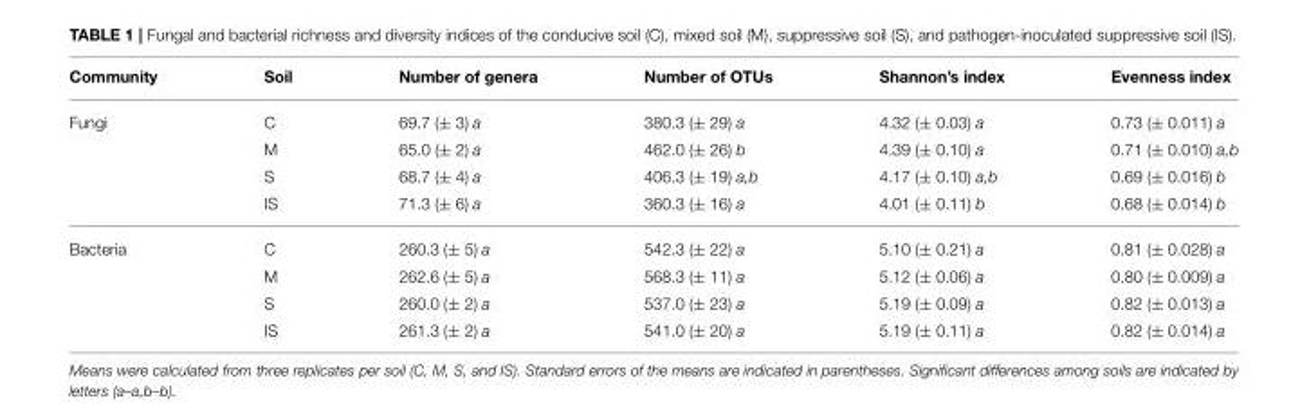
<table><thead><tr><td>Community</td><td>Soil</td><td>Number of genera</td><td>Number of OTUs</td><td>Shannon’s index</td><td>Evenness index</td></tr></thead><tbody><tr><td rowspan="4">Fungi</td><td>C</td><td>69.7 (± 3) a</td><td>380.3 (± 29) a</td><td>4.32 (± 0.03) a</td><td>0.73 (± 0.011) a</td></tr><tr><td>M</td><td>65.0 (± 2) a</td><td>462.0 (± 26) b</td><td>4.39 (± 0.10) a</td><td>0.71 (± 0.010) a,b</td></tr><tr><td>S</td><td>68.7 (± 4) a</td><td>406.3 (± 19) a,b</td><td>4.17 (± 0.10) a,b</td><td>0.69 (± 0.016) b</td></tr><tr><td>IS</td><td>71.3 (± 6) a</td><td>360.3 (± 16) a</td><td>4.01 (± 0.11) b</td><td>0.68 (± 0.014) b</td></tr><tr><td rowspan="4">Bacteria</td><td>C</td><td>260.3 (± 5) a</td><td>542.3 (± 22) a</td><td>5.10 (± 0.21) a</td><td>0.81 (± 0.028) a</td></tr><tr><td>M</td><td>262.6 (± 5) a</td><td>568.3 (± 11) a</td><td>5.12 (± 0.06) a</td><td>0.80 (± 0.009) a</td></tr><tr><td>S</td><td>260.0 (± 2) a</td><td>537.0 (± 23) a</td><td>5.19 (± 0.09) a</td><td>0.82 (± 0.013) a</td></tr><tr><td>IS</td><td>261.3 (± 2) a</td><td>541.0 (± 20) a</td><td>5.19 (± 0.11) a</td><td>0.82 (± 0.014) a</td></tr></tbody></table>